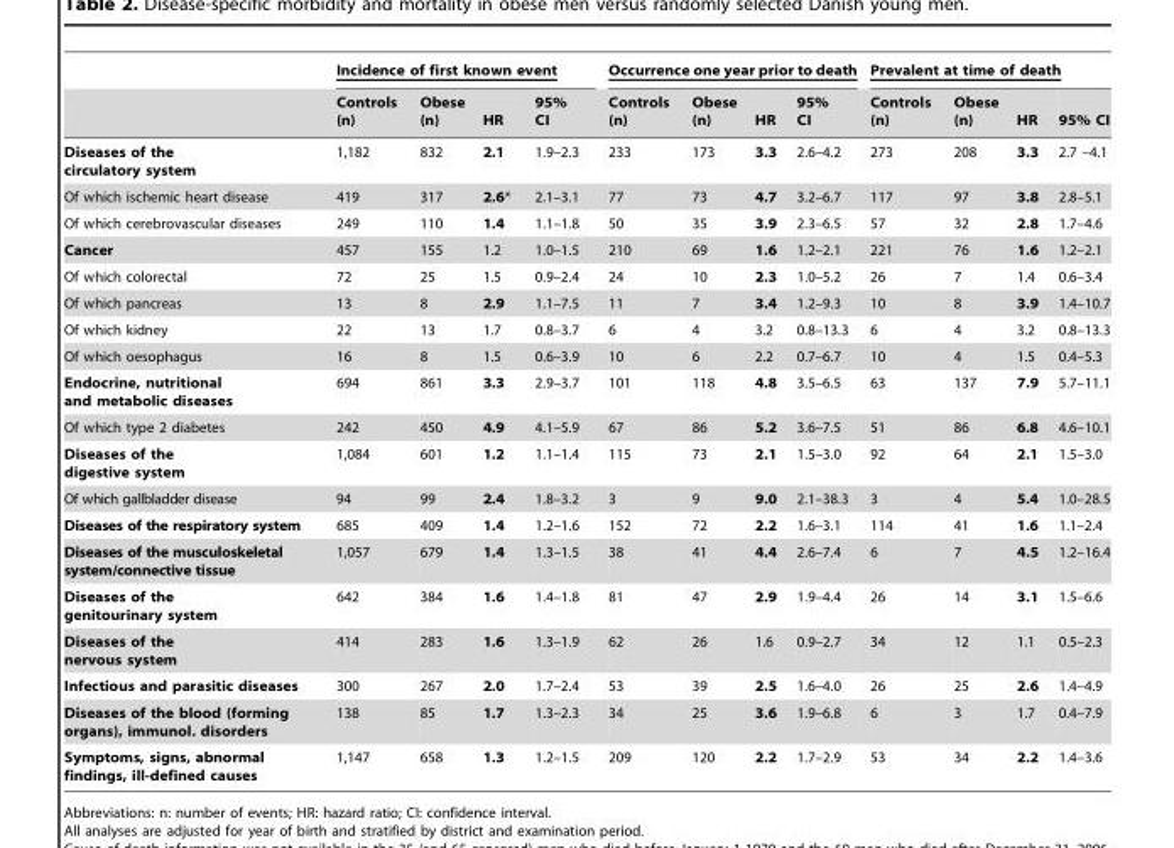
<table><thead><tr><td rowspan="2"></td><td colspan="4">Incidence of first known event</td><td colspan="4">Occurrence one year prior to death</td><td colspan="4">Prevalent at time of death</td></tr><tr><td>Controls (n)</td><td>Obese (n)</td><td>HR</td><td>95% CI</td><td>Controls (n)</td><td>Obese (n)</td><td>HR</td><td>95% CI</td><td>Controls (n)</td><td>Obese (n)</td><td>HR</td><td>95% CI</td></tr></thead><tbody><tr><td>Diseases of the circulatory system</td><td>1,182</td><td>832</td><td>2.1</td><td>1.9–2.3</td><td>233</td><td>173</td><td>3.3</td><td>2.6–4.2</td><td>273</td><td>208</td><td>3.3</td><td>2.7 –4.1</td></tr><tr><td>Of which ischemic heart disease</td><td>419</td><td>317</td><td>2.6*</td><td>2.1–3.1</td><td>77</td><td>73</td><td>4.7</td><td>3.2–6.7</td><td>117</td><td>97</td><td>3.8</td><td>2.8–5.1</td></tr><tr><td>Of which cerebrovascular diseases</td><td>249</td><td>110</td><td>1.4</td><td>1.1–1.8</td><td>50</td><td>35</td><td>3.9</td><td>2.3–6.5</td><td>57</td><td>32</td><td>2.8</td><td>1.7–4.6</td></tr><tr><td>Cancer</td><td>457</td><td>155</td><td>1.2</td><td>1.0–1.5</td><td>210</td><td>69</td><td>1.6</td><td>1.2–2.1</td><td>221</td><td>76</td><td>1.6</td><td>1.2–2.1</td></tr><tr><td>Of which colorectal</td><td>72</td><td>25</td><td>1.5</td><td>0.9–2.4</td><td>24</td><td>10</td><td>2.3</td><td>1.0–5.2</td><td>26</td><td>7</td><td>1.4</td><td>0.6–3.4</td></tr><tr><td>Of which pancreas</td><td>13</td><td>8</td><td>2.9</td><td>1.1–7.5</td><td>11</td><td>7</td><td>3.4</td><td>1.2–9.3</td><td>10</td><td>8</td><td>3.9</td><td>1.4–10.7</td></tr><tr><td>Of which kidney</td><td>22</td><td>13</td><td>1.7</td><td>0.8–3.7</td><td>6</td><td>4</td><td>3.2</td><td>0.8–13.3</td><td>6</td><td>4</td><td>3.2</td><td>0.8–13.3</td></tr><tr><td>Of which oesophagus</td><td>16</td><td>8</td><td>1.5</td><td>0.6–3.9</td><td>10</td><td>6</td><td>2.2</td><td>0.7–6.7</td><td>10</td><td>4</td><td>1.5</td><td>0.4–5.3</td></tr><tr><td>Endocrine, nutritional and metabolic diseases</td><td>694</td><td>861</td><td>3.3</td><td>2.9–3.7</td><td>101</td><td>118</td><td>4.8</td><td>3.5–6.5</td><td>63</td><td>137</td><td>7.9</td><td>5.7–11.1</td></tr><tr><td>Of which type 2 diabetes</td><td>242</td><td>450</td><td>4.9</td><td>4.1–5.9</td><td>67</td><td>86</td><td>5.2</td><td>3.6–7.5</td><td>51</td><td>86</td><td>6.8</td><td>4.6–10.1</td></tr><tr><td>Diseases of the digestive system</td><td>1,084</td><td>601</td><td>1.2</td><td>1.1–1.4</td><td>115</td><td>73</td><td>2.1</td><td>1.5–3.0</td><td>92</td><td>64</td><td>2.1</td><td>1.5–3.0</td></tr><tr><td>Of which gallbladder disease</td><td>94</td><td>99</td><td>2.4</td><td>1.8–3.2</td><td>3</td><td>9</td><td>9.0</td><td>2.1–38.3</td><td>3</td><td>4</td><td>5.4</td><td>1.0–28.5</td></tr><tr><td>Diseases of the respiratory system</td><td>685</td><td>409</td><td>1.4</td><td>1.2–1.6</td><td>152</td><td>72</td><td>2.2</td><td>1.6–3.1</td><td>114</td><td>41</td><td>1.6</td><td>1.1–2.4</td></tr><tr><td>Diseases of the musculoskeletal system/connective tissue</td><td>1,057</td><td>679</td><td>1.4</td><td>1.3–1.5</td><td>38</td><td>41</td><td>4.4</td><td>2.6–7.4</td><td>6</td><td>7</td><td>4.5</td><td>1.2–16.4</td></tr><tr><td>Diseases of the genitourinary system</td><td>642</td><td>384</td><td>1.6</td><td>1.4–1.8</td><td>81</td><td>47</td><td>2.9</td><td>1.9–4.4</td><td>26</td><td>14</td><td>3.1</td><td>1.5–6.6</td></tr><tr><td>Diseases of the nervous system</td><td>414</td><td>283</td><td>1.6</td><td>1.3–1.9</td><td>62</td><td>26</td><td>1.6</td><td>0.9–2.7</td><td>34</td><td>12</td><td>1.1</td><td>0.5–2.3</td></tr><tr><td>Infectious and parasitic diseases</td><td>300</td><td>267</td><td>2.0</td><td>1.7–2.4</td><td>53</td><td>39</td><td>2.5</td><td>1.6–4.0</td><td>26</td><td>25</td><td>2.6</td><td>1.4–4.9</td></tr><tr><td>Diseases of the blood (forming organs), immunol. disorders</td><td>138</td><td>85</td><td>1.7</td><td>1.3–2.3</td><td>34</td><td>25</td><td>3.6</td><td>1.9–6.8</td><td>6</td><td>3</td><td>1.7</td><td>0.4–7.9</td></tr><tr><td>Symptoms, signs, abnormal findings, ill-defined causes</td><td>1,147</td><td>658</td><td>1.3</td><td>1.2–1.5</td><td>209</td><td>120</td><td>2.2</td><td>1.7–2.9</td><td>53</td><td>34</td><td>2.2</td><td>1.4–3.6</td></tr></tbody></table>